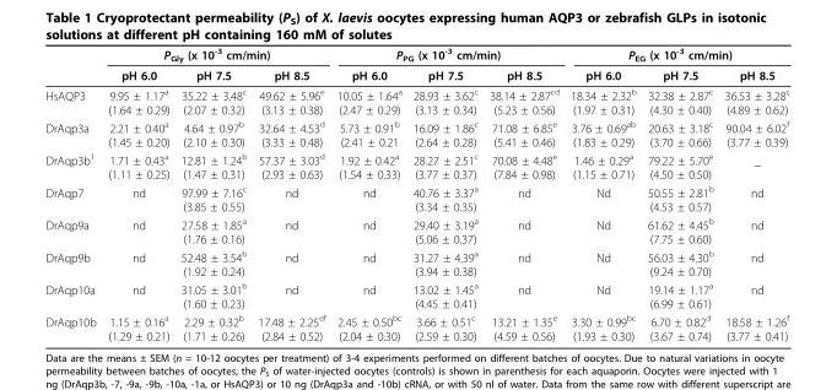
<table><thead><tr><td rowspan="2"></td><td colspan="3">P<sub>Gly</sub> (x 10<sup>-3</sup> cm/min)</td><td colspan="3">P<sub>PG</sub> (x 10<sup>-3</sup> cm/min)</td><td colspan="3">P<sub>EG</sub> (x 10<sup>-3</sup> cm/min)</td></tr><tr><td>pH 6.0</td><td>pH 7.5</td><td>pH 8.5</td><td>pH 6.0</td><td>pH 7.5</td><td>pH 8.5</td><td>pH 6.0</td><td>pH 7.5</td><td>pH 8.5</td></tr></thead><tbody><tr><td>HsAQP3</td><td>9.95 ± 1.17<sup>a</sup> (1.64 ± 0.29)</td><td>35.22 ± 3.48<sup>c</sup> (2.07 ± 0.32)</td><td>49.62 ± 5.96<sup>e</sup> (3.13 ± 0.38)</td><td>10.05 ± 1.64<sup>a</sup> (2.47 ± 0.29)</td><td>28.93 ± 3.62<sup>c</sup> (3.13 ± 0.34)</td><td>38.14 ± 2.87<sup>cd</sup> (5.23 ± 0.56)</td><td>18.34 ± 2.32<sup>b</sup> (1.97 ± 0.31)</td><td>32.38 ± 2.87<sup>c</sup> (4.30 ± 0.40)</td><td>36.53 ± 3.28<sup>c</sup> (4.89 ± 0.62)</td></tr><tr><td>DrAqp3a</td><td>2.21 ± 0.40<sup>a</sup> (1.45 ± 0.20)</td><td>4.64 ± 0.97<sup>b</sup> (2.10 ± 0.30)</td><td>32.64 ± 4.53<sup>d</sup> (3.33 ± 0.48)</td><td>5.73 ± 0.91<sup>b</sup> (2.41 ± 0.21</td><td>16.09 ± 1.86<sup>c</sup> (2.64 ± 0.28)</td><td>71.08 ± 6.85<sup>e</sup> (5.41 ± 0.46)</td><td>3.76 ± 0.69<sup>ab</sup> (1.83 ± 0.29)</td><td>20.63 ± 3.18<sup>c</sup> (3.70 ± 0.66)</td><td>90.04 ± 6.02<sup>f</sup> (3.77 ± 0.39)</td></tr><tr><td>DrAqp3b<sup>1</sup></td><td>1.71 ± 0.43<sup>a</sup> (1.11 ± 0.25)</td><td>12.81 ± 1.24<sup>b</sup> (1.47 ± 0.31)</td><td>57.37 ± 3.03<sup>d</sup> (2.93 ± 0.63)</td><td>1.92 ± 0.42<sup>a</sup> (1.54 ± 0.33)</td><td>28.27 ± 2.51<sup>c</sup> (3.77 ± 0.37)</td><td>70.08 ± 4.48<sup>e</sup> (7.84 ± 0.98)</td><td>1.46 ± 0.29<sup>a</sup> (1.15 ± 0.71)</td><td>79.22 ± 5.70<sup>e</sup> (4.50 ± 0.50)</td><td>_</td></tr><tr><td>DrAqp7</td><td>nd</td><td>97.99 ± 7.16<sup>c</sup> (3.85 ± 0.55)</td><td>nd</td><td>nd</td><td>40.76 ± 3.37<sup>a</sup> (3.34 ± 0.35)</td><td>nd</td><td>Nd</td><td>50.55 ± 2.81<sup>b</sup> (4.53 ± 0.57)</td><td>nd</td></tr><tr><td>DrAqp9a</td><td>nd</td><td>27.58 ± 1.85<sup>a</sup> (1.76 ± 0.16)</td><td>nd</td><td>nd</td><td>29.40 ± 3.19<sup>a</sup> (5.06 ± 0.37)</td><td>nd</td><td>Nd</td><td>61.62 ± 4.45<sup>b</sup> (7.75 ± 0.60)</td><td>nd</td></tr><tr><td>DrAqp9b</td><td>nd</td><td>52.48 ± 3.54<sup>b</sup> (1.92 ± 0.24)</td><td>nd</td><td>nd</td><td>31.27 ± 4.39<sup>a</sup> (3.94 ± 0.38)</td><td>nd</td><td>Nd</td><td>56.03 ± 4.30<sup>b</sup> (9.24 ± 0.70)</td><td>nd</td></tr><tr><td>DrAqp10a</td><td>nd</td><td>31.05 ± 3.01<sup>b</sup> (1.60 ± 0.23)</td><td>nd</td><td>nd</td><td>13.02 ± 1.45<sup>a</sup> (4.45 ± 0.41)</td><td>nd</td><td>Nd</td><td>19.14 ± 1.17<sup>a</sup> (6.99 ± 0.61)</td><td>nd</td></tr><tr><td>DrAqp10b</td><td>1.15 ± 0.16<sup>a</sup> (1.29 ± 0.21)</td><td>2.29 ± 0.32<sup>b</sup> (1.71 ± 0.26)</td><td>17.48 ± 2.25<sup>ef</sup> (2.84 ± 0.52)</td><td>2.45 ± 0.50<sup>bc</sup> (2.04 ± 0.30)</td><td>3.66 ± 0.51<sup>c</sup> (2.59 ± 0.30)</td><td>13.21 ± 1.35<sup>e</sup> (4.59 ± 0.56)</td><td>3.30 ± 0.99<sup>bc</sup> (1.93 ± 0.30)</td><td>6.70 ± 0.82<sup>d</sup> (3.67 ± 0.74)</td><td>18.58 ± 1.26<sup>f</sup> (3.77 ± 0.41)</td></tr></tbody></table>